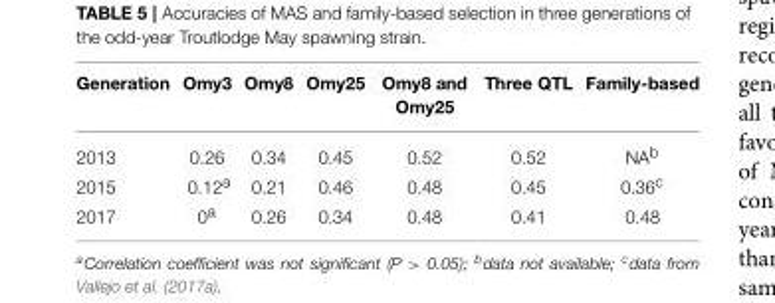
<table><thead><tr><td>Generation</td><td>Omy3</td><td>Omy8</td><td>Omy25</td><td>Omy8 and Omy25</td><td>Three QTL</td><td>Family-based</td></tr></thead><tbody><tr><td>2013</td><td>0.26</td><td>0.34</td><td>0.45</td><td>0.52</td><td>0.52</td><td>NA<sup>b</sup></td></tr><tr><td>2015</td><td>0.12<sup>a</sup></td><td>0.21</td><td>0.46</td><td>0.48</td><td>0.45</td><td>0.36<sup>c</sup></td></tr><tr><td>2017</td><td>0<sup>a</sup></td><td>0.26</td><td>0.34</td><td>0.48</td><td>0.41</td><td>0.48</td></tr></tbody></table>